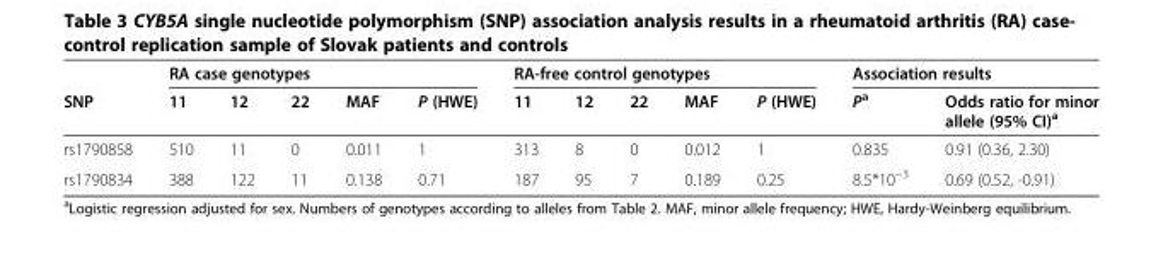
<table><thead><tr><td rowspan="2">SNP</td><td colspan="5">RA case genotypes</td><td colspan="5">RA-free control genotypes</td><td colspan="2">Association results</td></tr><tr><td>11</td><td>12</td><td>22</td><td>MAF</td><td>P (HWE)</td><td>11</td><td>12</td><td>22</td><td>MAF</td><td>P (HWE)</td><td>P<sup>a</sup></td><td>Odds ratio for minor allele (95% CI)<sup>a</sup></td></tr></thead><tbody><tr><td>rs1790858</td><td>510</td><td>11</td><td>0</td><td>0.011</td><td>1</td><td>313</td><td>8</td><td>0</td><td>0.012</td><td>1</td><td>0.835</td><td>0.91 (0.36, 2.30)</td></tr><tr><td>rs1790834</td><td>388</td><td>122</td><td>11</td><td>0.138</td><td>0.71</td><td>187</td><td>95</td><td>7</td><td>0.189</td><td>0.25</td><td>8.5*10<sup>−3</sup></td><td>0.69 (0.52, -0.91)</td></tr></tbody></table>